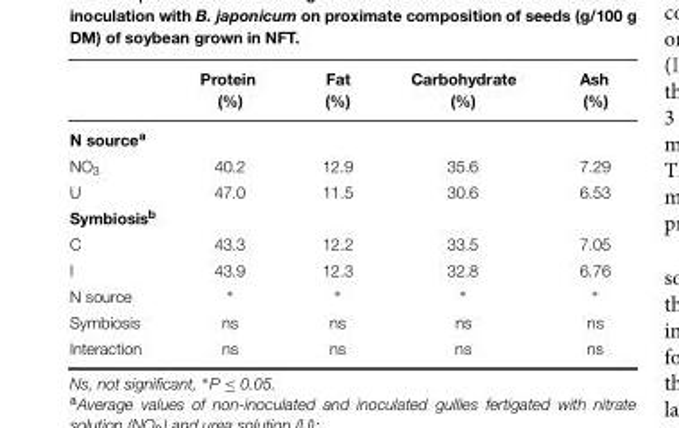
<table><thead><tr><td></td><td>Protein (%)</td><td>Fat (%)</td><td>Carbohydrate (%)</td><td>Ash (%)</td></tr></thead><tbody><tr><td colspan="5">N source<sup>a</sup></td></tr><tr><td>NO<sub>3</sub></td><td>40.2</td><td>12.9</td><td>35.6</td><td>7.29</td></tr><tr><td>U</td><td>47.0</td><td>11.5</td><td>30.6</td><td>6.53</td></tr><tr><td colspan="5">Symbiosis<sup>b</sup></td></tr><tr><td>C</td><td>43.3</td><td>12.2</td><td>33.5</td><td>7.05</td></tr><tr><td>I</td><td>43.9</td><td>12.3</td><td>32.8</td><td>6.76</td></tr><tr><td>N source</td><td>∗</td><td>∗</td><td>∗</td><td>∗</td></tr><tr><td>Symbiosis</td><td>ns</td><td>ns</td><td>ns</td><td>ns</td></tr><tr><td>Interaction</td><td>ns</td><td>ns</td><td>ns</td><td>ns</td></tr></tbody></table>